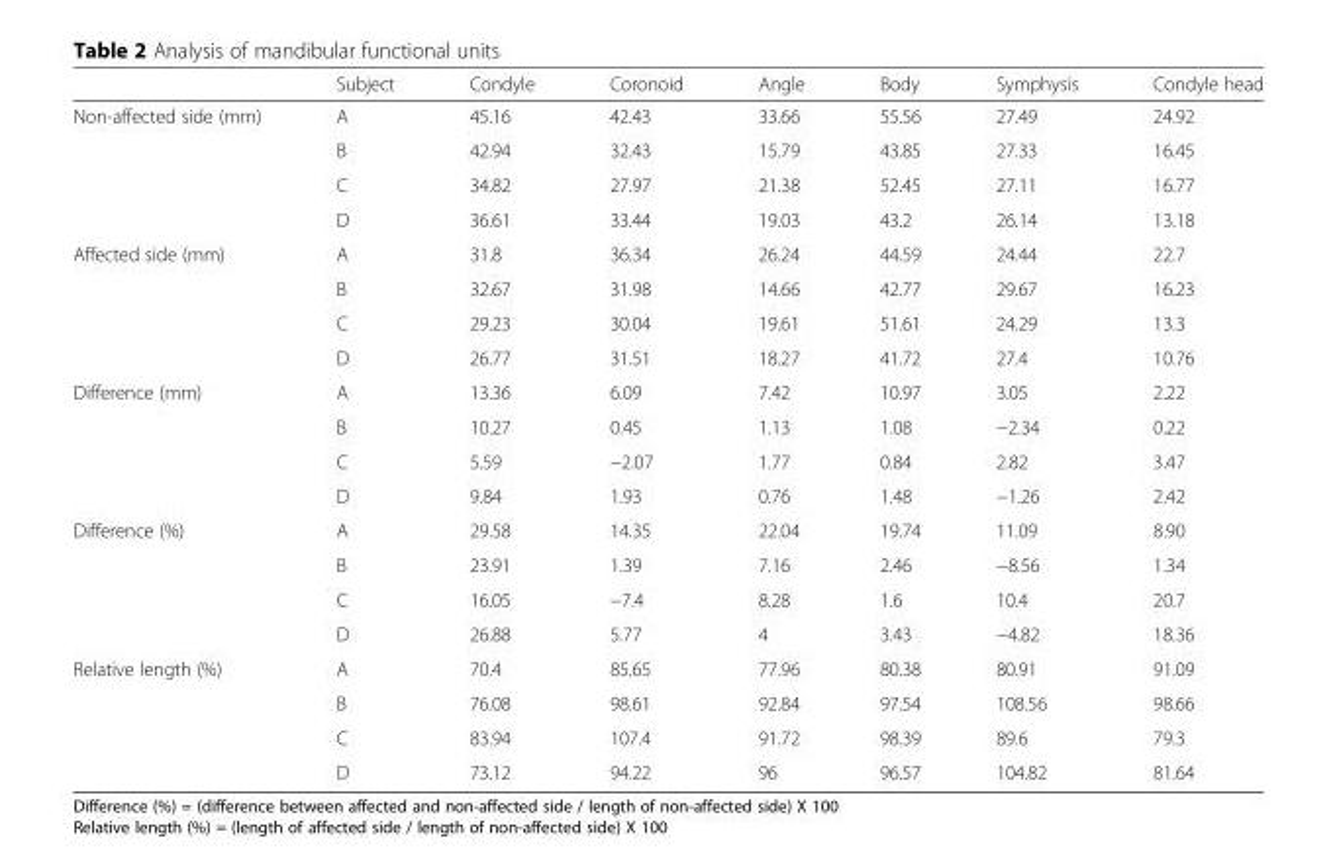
<table><thead><tr><td></td><td>Subject</td><td>Condyle</td><td>Coronoid</td><td>Angle</td><td>Body</td><td>Symphysis</td><td>Condyle head</td></tr></thead><tbody><tr><td rowspan="4">Non-affected side (mm)</td><td>A</td><td>45.16</td><td>42.43</td><td>33.66</td><td>55.56</td><td>27.49</td><td>24.92</td></tr><tr><td>B</td><td>42.94</td><td>32.43</td><td>15.79</td><td>43.85</td><td>27.33</td><td>16.45</td></tr><tr><td>C</td><td>34.82</td><td>27.97</td><td>21.38</td><td>52.45</td><td>27.11</td><td>16.77</td></tr><tr><td>D</td><td>36.61</td><td>33.44</td><td>19.03</td><td>43.2</td><td>26.14</td><td>13.18</td></tr><tr><td rowspan="4">Affected side (mm)</td><td>A</td><td>31.8</td><td>36.34</td><td>26.24</td><td>44.59</td><td>24.44</td><td>22.7</td></tr><tr><td>B</td><td>32.67</td><td>31.98</td><td>14.66</td><td>42.77</td><td>29.67</td><td>16.23</td></tr><tr><td>C</td><td>29.23</td><td>30.04</td><td>19.61</td><td>51.61</td><td>24.29</td><td>13.3</td></tr><tr><td>D</td><td>26.77</td><td>31.51</td><td>18.27</td><td>41.72</td><td>27.4</td><td>10.76</td></tr><tr><td rowspan="4">Difference (mm)</td><td>A</td><td>13.36</td><td>6.09</td><td>7.42</td><td>10.97</td><td>3.05</td><td>2.22</td></tr><tr><td>B</td><td>10.27</td><td>0.45</td><td>1.13</td><td>1.08</td><td>−2.34</td><td>0.22</td></tr><tr><td>C</td><td>5.59</td><td>−2.07</td><td>1.77</td><td>0.84</td><td>2.82</td><td>3.47</td></tr><tr><td>D</td><td>9.84</td><td>1.93</td><td>0.76</td><td>1.48</td><td>−1.26</td><td>2.42</td></tr><tr><td rowspan="4">Difference (%)</td><td>A</td><td>29.58</td><td>14.35</td><td>22.04</td><td>19.74</td><td>11.09</td><td>8.90</td></tr><tr><td>B</td><td>23.91</td><td>1.39</td><td>7.16</td><td>2.46</td><td>−8.56</td><td>1.34</td></tr><tr><td>C</td><td>16.05</td><td>−7.4</td><td>8.28</td><td>1.6</td><td>10.4</td><td>20.7</td></tr><tr><td>D</td><td>26.88</td><td>5.77</td><td>4</td><td>3.43</td><td>−4.82</td><td>18.36</td></tr><tr><td rowspan="4">Relative length (%)</td><td>A</td><td>70.4</td><td>85.65</td><td>77.96</td><td>80.38</td><td>80.91</td><td>91.09</td></tr><tr><td>B</td><td>76.08</td><td>98.61</td><td>92.84</td><td>97.54</td><td>108.56</td><td>98.66</td></tr><tr><td>C</td><td>83.94</td><td>107.4</td><td>91.72</td><td>98.39</td><td>89.6</td><td>79.3</td></tr><tr><td>D</td><td>73.12</td><td>94.22</td><td>96</td><td>96.57</td><td>104.82</td><td>81.64</td></tr></tbody></table>